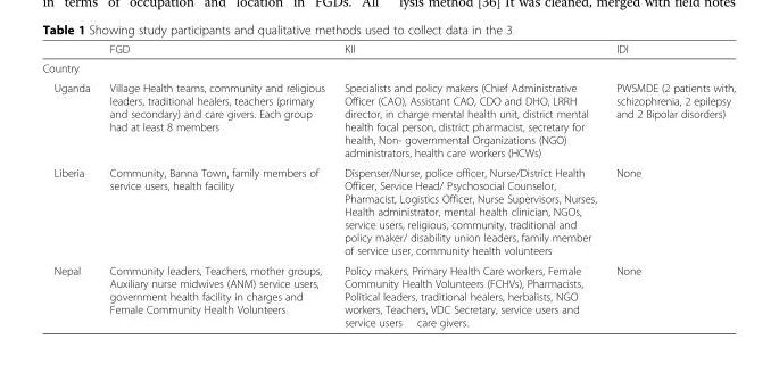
<table><thead><tr><td></td><td>FGD</td><td>KII</td><td>IDI</td></tr></thead><tbody><tr><td colspan="4">Country</td></tr><tr><td>Uganda</td><td>Village Health teams, community and religious leaders, traditional healers, teachers (primary and secondary) and care givers. Each group had at least 8 members</td><td>Specialists and policy makers (Chief Administrative Officer (CAO), Assistant CAO, CDO and DHO, LRRH director, in charge mental health unit, district mental health focal person, district pharmacist, secretary for health, Non- governmental Organizations (NGO) administrators, health care workers (HCWs)</td><td>PWSMDE (2 patients with, schizophrenia, 2 epilepsy and 2 Bipolar disorders)</td></tr><tr><td>Liberia</td><td>Community, Banna Town, family members of service users, health facility</td><td>Dispenser/Nurse, police officer, Nurse/District Health Officer, Service Head/ Psychosocial Counselor, Pharmacist, Logistics Officer, Nurse Supervisors, Nurses, Health administrator, mental health clinician, NGOs, service users, religious, community, traditional and policy maker/ disability union leaders, family member of service user, community health volunteers</td><td>None</td></tr><tr><td>Nepal</td><td>Community leaders, Teachers, mother groups, Auxiliary nurse midwives (ANM) service users, government health facility in charges and Female Community Health Volunteers</td><td>Policy makers, Primary Health Care workers, Female Community Health Volunteers (FCHVs), Pharmacists, Political leaders, traditional healers, herbalists, NGO workers, Teachers, VDC Secretary, service users and service users care givers.</td><td>None</td></tr></tbody></table>